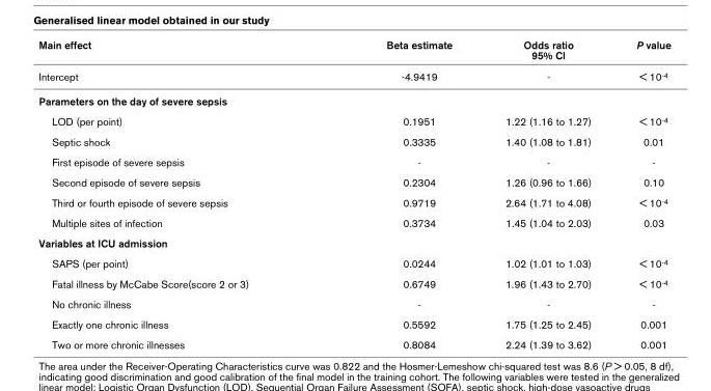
<table><thead><tr><td>Main effect</td><td>Beta estimate</td><td>Odds ratio 95% CI</td><td>P value</td></tr></thead><tbody><tr><td>Intercept</td><td>-4.9419</td><td>-</td><td>&lt; 10<sup>-4</sup></td></tr><tr><td colspan="4">Parameters on the day of severe sepsis</td></tr><tr><td>LOD (per point)</td><td>0.1951</td><td>1.22 (1.16 to 1.27)</td><td>&lt; 10<sup>-4</sup></td></tr><tr><td>Septic shock</td><td>0.3335</td><td>1.40 (1.08 to 1.81)</td><td>0.01</td></tr><tr><td>First episode of severe sepsis</td><td>-</td><td>-</td><td>-</td></tr><tr><td>Second episode of severe sepsis</td><td>0.2304</td><td>1.26 (0.96 to 1.66)</td><td>0.10</td></tr><tr><td>Third or fourth episode of severe sepsis</td><td>0.9719</td><td>2.64 (1.71 to 4.08)</td><td>&lt; 10<sup>-4</sup></td></tr><tr><td>Multiple sites of infection</td><td>0.3734</td><td>1.45 (1.04 to 2.03)</td><td>0.03</td></tr><tr><td colspan="4">Variables at ICU admission</td></tr><tr><td>SAPS (per point)</td><td>0.0244</td><td>1.02 (1.01 to 1.03)</td><td>&lt; 10<sup>-4</sup></td></tr><tr><td>Fatal illness by McCabe Score(score 2 or 3)</td><td>0.6749</td><td>1.96 (1.43 to 2.70)</td><td>&lt; 10<sup>-4</sup></td></tr><tr><td>No chronic illness</td><td>-</td><td>-</td><td>-</td></tr><tr><td>Exactly one chronic illness</td><td>0.5592</td><td>1.75 (1.25 to 2.45)</td><td>0.001</td></tr><tr><td>Two or more chronic illnesses</td><td>0.8084</td><td>2.24 (1.39 to 3.62)</td><td>0.001</td></tr></tbody></table>